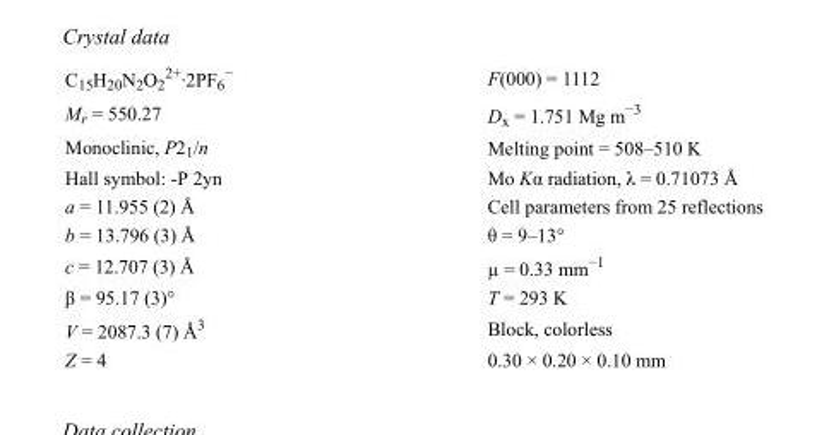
<table><tbody><tr><td>C<sub>15</sub>H<sub>20</sub>N<sub>2</sub>O<sub>2</sub> <sup>2+</sup>·2PF<sub>6</sub> <sup>−</sup></td><td>F(000) = 1112</td></tr><tr><td>M<sub>r</sub> = 550.27</td><td>D<sub>x</sub> = 1.751 Mg m<sup>−3</sup></td></tr><tr><td>Monoclinic, P2<sub>1</sub>/n</td><td>Melting point = 508–510 K</td></tr><tr><td>Hall symbol: -P 2yn</td><td>Mo Kα radiation, λ = 0.71073 Å</td></tr><tr><td>a = 11.955 (2) Å</td><td>Cell parameters from 25 reflections</td></tr><tr><td>b = 13.796 (3) Å</td><td>θ = 9–13°</td></tr><tr><td>c = 12.707 (3) Å</td><td>µ = 0.33 mm<sup>−1</sup></td></tr><tr><td>β = 95.17 (3)°</td><td>T = 293 K</td></tr><tr><td>V = 2087.3 (7) Å<sup>3</sup></td><td>Block, colorless</td></tr><tr><td>Z = 4</td><td>0.30 × 0.20 × 0.10 mm</td></tr></tbody></table>